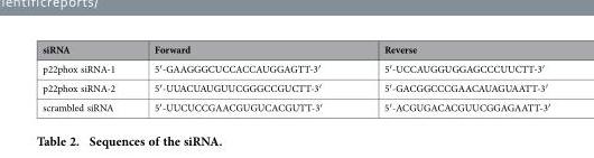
<table><thead><tr><td>siRNA</td><td>Forward</td><td>Reverse</td></tr></thead><tbody><tr><td>p22phox siRNA-1</td><td>5′ -GAAGGGCUCCACCAUGGAGTT-3′</td><td>5′ -UCCAUGGUGGAGCCCUUCTT-3′</td></tr><tr><td>p22phox siRNA-2</td><td>5′ -UUACUAUGUUCGGGCCGUCTT-3′</td><td>5′ -GACGGCCCGAACAUAGUAATT-3′</td></tr><tr><td>scrambled siRNA</td><td>5′ -UUCUCCGAACGUGUCACGUTT-3′</td><td>5′ -ACGUGACACGUUCGGAGAATT-3′</td></tr></tbody></table>